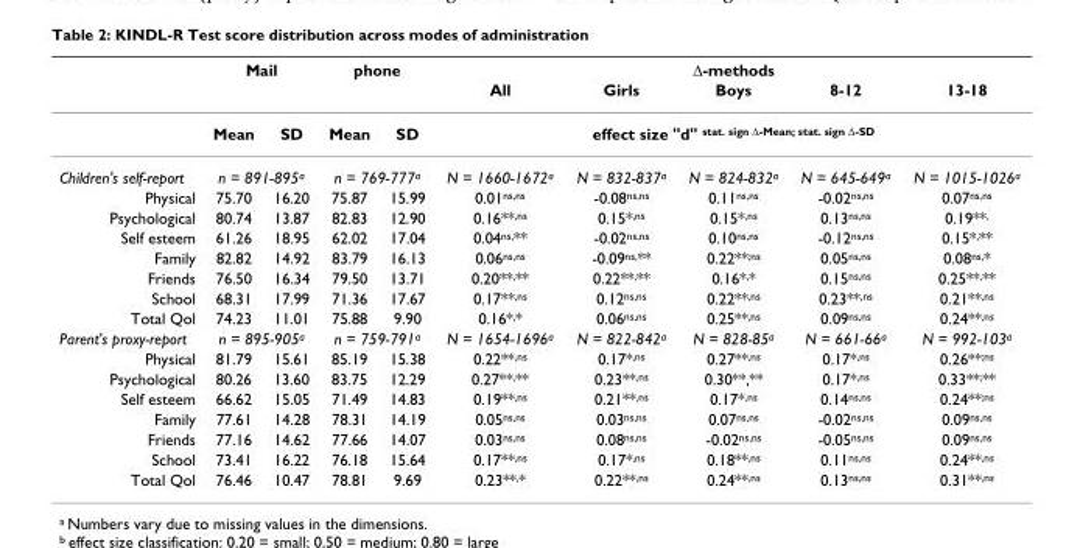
<table><thead><tr><td rowspan="2"></td><td colspan="2">Mail</td><td colspan="2">phone</td><td colspan="5">Δ-methods</td></tr><tr><td></td><td></td><td></td><td></td><td>All</td><td>Girls</td><td>Boys</td><td>8-12</td><td>13-18</td></tr></thead><tbody><tr><td></td><td>Mean</td><td>SD</td><td>Mean</td><td>SD</td><td colspan="5">effect size &quot;d&quot; <sup>stat. sign Δ-Mean; stat. sign Δ-SD</sup></td></tr><tr><td>Children&#x27;s self-report</td><td colspan="2">n = 891-895<sup>a</sup></td><td colspan="2">n = 769-777<sup>a</sup></td><td>N = 1660-1672<sup>a</sup></td><td>N = 832-837<sup>a</sup></td><td>N = 824-832<sup>a</sup></td><td>N = 645-649<sup>a</sup></td><td>N = 1015-1026<sup>a</sup></td></tr><tr><td>Physical</td><td>75.70</td><td>16.20</td><td>75.87</td><td>15.99</td><td>0.01<sup>ns,ns</sup></td><td>-0.08<sup>ns,ns</sup></td><td>0.11<sup>ns,ns</sup></td><td>-0.02<sup>ns,ns</sup></td><td>0.07<sup>ns,ns</sup></td></tr><tr><td>Psychological</td><td>80.74</td><td>13.87</td><td>82.83</td><td>12.90</td><td>0.16**<sup>,ns</sup></td><td>0.15*<sup>,ns</sup></td><td>0.15*<sup>,ns</sup></td><td>0.13<sup>ns,ns</sup></td><td>0.19**<sup>,</sup></td></tr><tr><td>Self esteem</td><td>61.26</td><td>18.95</td><td>62.02</td><td>17.04</td><td>0.04<sup>ns,</sup>**</td><td>-0.02<sup>ns,ns</sup></td><td>0.10<sup>ns,ns</sup></td><td>-0.12<sup>ns,ns</sup></td><td>0.15*<sup>,</sup>**</td></tr><tr><td>Family</td><td>82.82</td><td>14.92</td><td>83.79</td><td>16.13</td><td>0.06<sup>ns,ns</sup></td><td>-0.09<sup>ns,</sup>**</td><td>0.22**<sup>;ns</sup></td><td>0.05<sup>ns,ns</sup></td><td>0.08<sup>ns,</sup>*</td></tr><tr><td>Friends</td><td>76.50</td><td>16.34</td><td>79.50</td><td>13.71</td><td>0.20**<sup>,</sup>**</td><td>0.22**<sup>,</sup>**</td><td>0.16*<sup>,</sup>*</td><td>0.15<sup>ns,ns</sup></td><td>0.25**<sup>,</sup>**</td></tr><tr><td>School</td><td>68.31</td><td>17.99</td><td>71.36</td><td>17.67</td><td>0.17**<sup>,ns</sup></td><td>0.12<sup>ns,ns</sup></td><td>0.22**<sup>,ns</sup></td><td>0.23**<sup>,ns</sup></td><td>0.21**<sup>,ns</sup></td></tr><tr><td>Total Qol</td><td>74.23</td><td>11.01</td><td>75.88</td><td>9.90</td><td>0.16*<sup>,</sup>*</td><td>0.06<sup>ns,ns</sup></td><td>0.25**<sup>,ns</sup></td><td>0.09<sup>ns,ns</sup></td><td>0.24**<sup>,ns</sup></td></tr><tr><td>Parent&#x27;s proxy-report</td><td colspan="2">n = 895-905<sup>a</sup></td><td colspan="2">n = 759-791<sup>a</sup></td><td>N = 1654-1696<sup>a</sup></td><td>N = 822-842<sup>a</sup></td><td>N = 828-85<sup>a</sup></td><td>N = 661-66<sup>a</sup></td><td>N = 992-103<sup>a</sup></td></tr><tr><td>Physical</td><td>81.79</td><td>15.61</td><td>85.19</td><td>15.38</td><td>0.22**<sup>,ns</sup></td><td>0.17*<sup>,ns</sup></td><td>0.27**<sup>,ns</sup></td><td>0.17*<sup>,ns</sup></td><td>0.26**<sup>;ns</sup></td></tr><tr><td>Psychological</td><td>80.26</td><td>13.60</td><td>83.75</td><td>12.29</td><td>0.27**<sup>,</sup>**</td><td>0.23**<sup>,ns</sup></td><td>0.30**,**</td><td>0.17*<sup>,ns</sup></td><td>0.33**<sup>;</sup>**</td></tr><tr><td>Self esteem</td><td>66.62</td><td>15.05</td><td>71.49</td><td>14.83</td><td>0.19**<sup>,ns</sup></td><td>0.21**<sup>,ns</sup></td><td>0.17*<sup>,ns</sup></td><td>0.14<sup>ns,ns</sup></td><td>0.24**<sup>;ns</sup></td></tr><tr><td>Family</td><td>77.61</td><td>14.28</td><td>78.31</td><td>14.19</td><td>0.05<sup>ns,ns</sup></td><td>0.03<sup>ns,ns</sup></td><td>0.07<sup>ns,ns</sup></td><td>-0.02<sup>ns,ns</sup></td><td>0.09<sup>ns,ns</sup></td></tr><tr><td>Friends</td><td>77.16</td><td>14.62</td><td>77.66</td><td>14.07</td><td>0.03<sup>ns,ns</sup></td><td>0.08<sup>ns,ns</sup></td><td>-0.02<sup>ns,ns</sup></td><td>-0.05<sup>ns,ns</sup></td><td>0.09<sup>ns,ns</sup></td></tr><tr><td>School</td><td>73.41</td><td>16.22</td><td>76.18</td><td>15.64</td><td>0.17**<sup>,ns</sup></td><td>0.17*<sup>,ns</sup></td><td>0.18**<sup>,ns</sup></td><td>0.11<sup>ns,ns</sup></td><td>0.24**<sup>,ns</sup></td></tr><tr><td>Total Qol</td><td>76.46</td><td>10.47</td><td>78.81</td><td>9.69</td><td>0.23**<sup>,</sup>*</td><td>0.22**<sup>,ns</sup></td><td>0.24**<sup>,ns</sup></td><td>0.13<sup>ns,ns</sup></td><td>0.31**<sup>,ns</sup></td></tr></tbody></table>